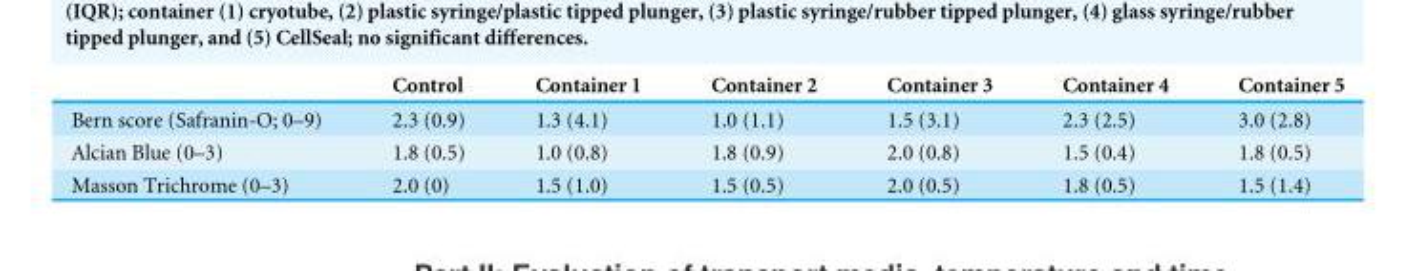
<table><thead><tr><td></td><td>Control</td><td>Container 1</td><td>Container 2</td><td>Container 3</td><td>Container 4</td><td>Container 5</td></tr></thead><tbody><tr><td>Bern score (Safranin-O; 0–9)</td><td>2.3 (0.9)</td><td>1.3 (4.1)</td><td>1.0 (1.1)</td><td>1.5 (3.1)</td><td>2.3 (2.5)</td><td>3.0 (2.8)</td></tr><tr><td>Alcian Blue (0–3)</td><td>1.8 (0.5)</td><td>1.0 (0.8)</td><td>1.8 (0.9)</td><td>2.0 (0.8)</td><td>1.5 (0.4)</td><td>1.8 (0.5)</td></tr><tr><td>Masson Trichrome (0–3)</td><td>2.0 (0)</td><td>1.5 (1.0)</td><td>1.5 (0.5)</td><td>2.0 (0.5)</td><td>1.8 (0.5)</td><td>1.5 (1.4)</td></tr></tbody></table>